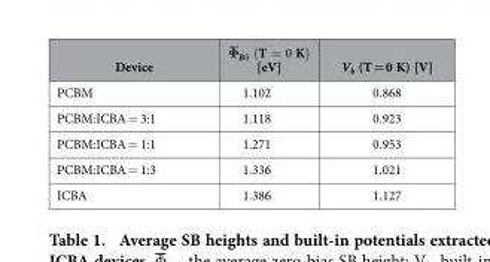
<table><thead><tr><td>Device</td><td>[eV]</td><td>V<sub>b</sub> (T = 0 K) [V]</td></tr></thead><tbody><tr><td>PCBM</td><td>1.102</td><td>0.868</td></tr><tr><td>PCBM:ICBA = 3:1</td><td>1.118</td><td>0.923</td></tr><tr><td>PCBM:ICBA = 1:1</td><td>1.271</td><td>0.953</td></tr><tr><td>PCBM:ICBA = 1:3</td><td>1.336</td><td>1.021</td></tr><tr><td>ICBA</td><td>1.386</td><td>1.127</td></tr></tbody></table>